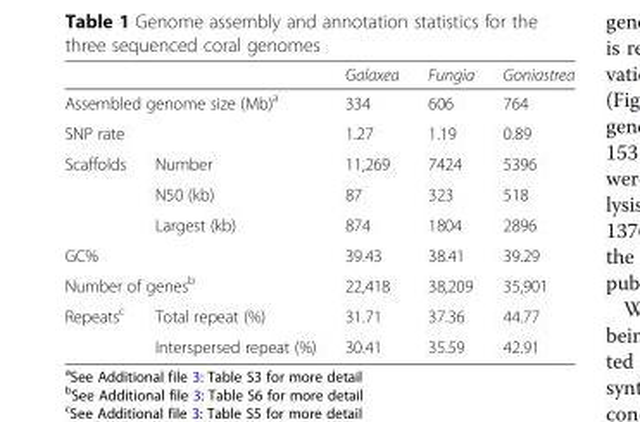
<table><thead><tr><td></td><td></td><td>Galaxea</td><td>Fungia</td><td>Goniastrea</td></tr></thead><tbody><tr><td colspan="2">Assembled genome size (Mb)<sup>a</sup></td><td>334</td><td>606</td><td>764</td></tr><tr><td colspan="2">SNP rate</td><td>1.27</td><td>1.19</td><td>0.89</td></tr><tr><td rowspan="3">Scaffolds</td><td>Number</td><td>11,269</td><td>7424</td><td>5396</td></tr><tr><td>N50 (kb)</td><td>87</td><td>323</td><td>518</td></tr><tr><td>Largest (kb)</td><td>874</td><td>1804</td><td>2896</td></tr><tr><td colspan="2">GC%</td><td>39.43</td><td>38.41</td><td>39.29</td></tr><tr><td colspan="2">Number of genes<sup>b</sup></td><td>22,418</td><td>38,209</td><td>35,901</td></tr><tr><td rowspan="2">Repeats<sup>c</sup></td><td>Total repeat (%)</td><td>31.71</td><td>37.36</td><td>44.77</td></tr><tr><td>Interspersed repeat (%)</td><td>30.41</td><td>35.59</td><td>42.91</td></tr></tbody></table>